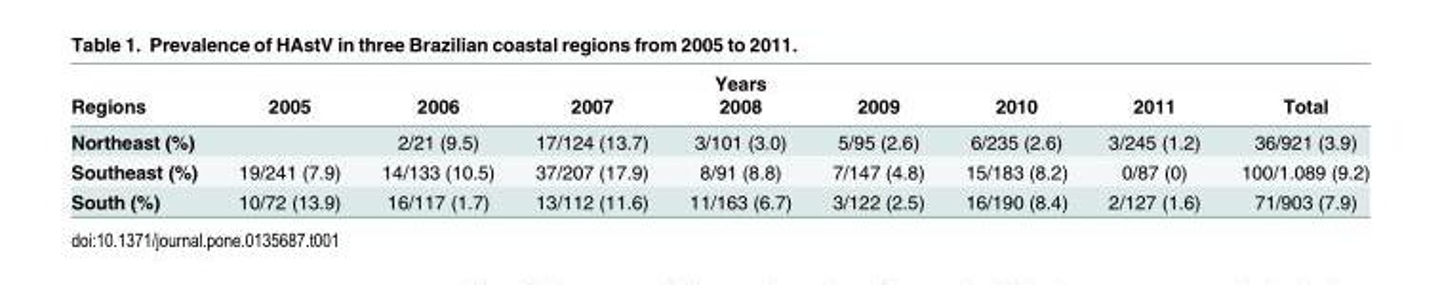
<table><thead><tr><td rowspan="2">Regions</td><td rowspan="2">2005</td><td rowspan="2">2006</td><td rowspan="2">2007</td><td rowspan="2">Years 2008</td><td rowspan="2">2009</td><td rowspan="2">2010</td><td rowspan="2">2011</td><td rowspan="2">Total</td></tr><tr></tr></thead><tbody><tr><td>Northeast (%)</td><td></td><td>2/21 (9.5)</td><td>17/124 (13.7)</td><td>3/101 (3.0)</td><td>5/95 (2.6)</td><td>6/235 (2.6)</td><td>3/245 (1.2)</td><td>36/921 (3.9)</td></tr><tr><td>Southeast (%)</td><td>19/241 (7.9)</td><td>14/133 (10.5)</td><td>37/207 (17.9)</td><td>8/91 (8.8)</td><td>7/147 (4.8)</td><td>15/183 (8.2)</td><td>0/87 (0)</td><td>100/1.089 (9.2)</td></tr><tr><td>South (%)</td><td>10/72 (13.9)</td><td>16/117 (1.7)</td><td>13/112 (11.6)</td><td>11/163 (6.7)</td><td>3/122 (2.5)</td><td>16/190 (8.4)</td><td>2/127 (1.6)</td><td>71/903 (7.9)</td></tr></tbody></table>